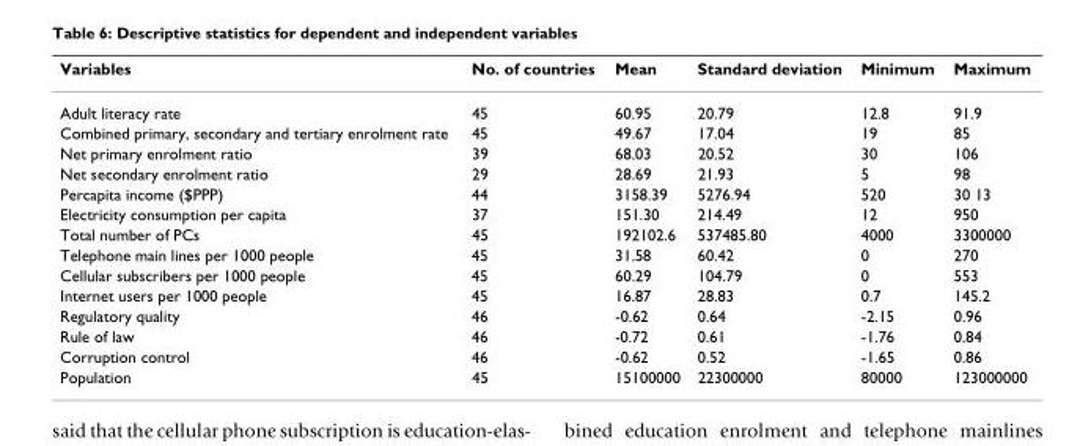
<table><thead><tr><td>Variables</td><td>No. of countries</td><td>Mean</td><td>Standard deviation</td><td>Minimum</td><td>Maximum</td></tr></thead><tbody><tr><td>Adult literacy rate</td><td>45</td><td>60.95</td><td>20.79</td><td>12.8</td><td>91.9</td></tr><tr><td>Combined primary, secondary and tertiary enrolment rate</td><td>45</td><td>49.67</td><td>17.04</td><td>19</td><td>85</td></tr><tr><td>Net primary enrolment ratio</td><td>39</td><td>68.03</td><td>20.52</td><td>30</td><td>106</td></tr><tr><td>Net secondary enrolment ratio</td><td>29</td><td>28.69</td><td>21.93</td><td>5</td><td>98</td></tr><tr><td>Percapita income ($PPP)</td><td>44</td><td>3158.39</td><td>5276.94</td><td>520</td><td>30 13</td></tr><tr><td>Electricity consumption per capita</td><td>37</td><td>151.30</td><td>214.49</td><td>12</td><td>950</td></tr><tr><td>Total number of PCs</td><td>45</td><td>192102.6</td><td>537485.80</td><td>4000</td><td>3300000</td></tr><tr><td>Telephone main lines per 1000 people</td><td>45</td><td>31.58</td><td>60.42</td><td>0</td><td>270</td></tr><tr><td>Cellular subscribers per 1000 people</td><td>45</td><td>60.29</td><td>104.79</td><td>0</td><td>553</td></tr><tr><td>Internet users per 1000 people</td><td>45</td><td>16.87</td><td>28.83</td><td>0.7</td><td>145.2</td></tr><tr><td>Regulatory quality</td><td>46</td><td>-0.62</td><td>0.64</td><td>-2.15</td><td>0.96</td></tr><tr><td>Rule of law</td><td>46</td><td>-0.72</td><td>0.61</td><td>-1.76</td><td>0.84</td></tr><tr><td>Corruption control</td><td>46</td><td>-0.62</td><td>0.52</td><td>-1.65</td><td>0.86</td></tr><tr><td>Population</td><td>45</td><td>15100000</td><td>22300000</td><td>80000</td><td>123000000</td></tr></tbody></table>